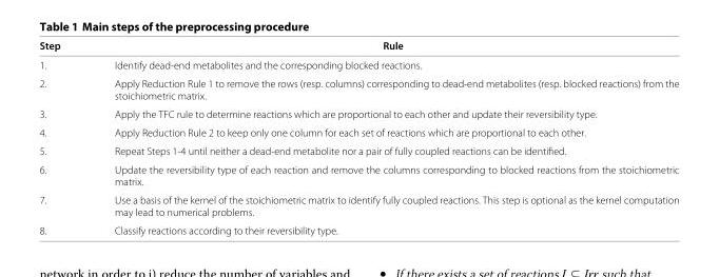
<table><thead><tr><td>Step</td><td>Rule</td></tr></thead><tbody><tr><td>1.</td><td>Identify dead-end metabolites and the corresponding blocked reactions.</td></tr><tr><td>2.</td><td>Apply Reduction Rule 1 to remove the rows (resp. columns) corresponding to dead-end metabolites (resp. blocked reactions) from the stoichiometric matrix.</td></tr><tr><td>3.</td><td>Apply the TFC rule to determine reactions which are proportional to each other and update their reversibility type.</td></tr><tr><td>4.</td><td>Apply Reduction Rule 2 to keep only one column for each set of reactions which are proportional to each other.</td></tr><tr><td>5.</td><td>Repeat Steps 1-4 until neither a dead-end metabolite nor a pair of fully coupled reactions can be identified.</td></tr><tr><td>6.</td><td>Update the reversibility type of each reaction and remove the columns corresponding to blocked reactions from the stoichiometric matrix.</td></tr><tr><td>7.</td><td>Use a basis of the kernel of the stoichiometric matrix to identify fully coupled reactions. This step is optional as the kernel computation may lead to numerical problems.</td></tr><tr><td>8.</td><td>Classify reactions according to their reversibility type.</td></tr></tbody></table>